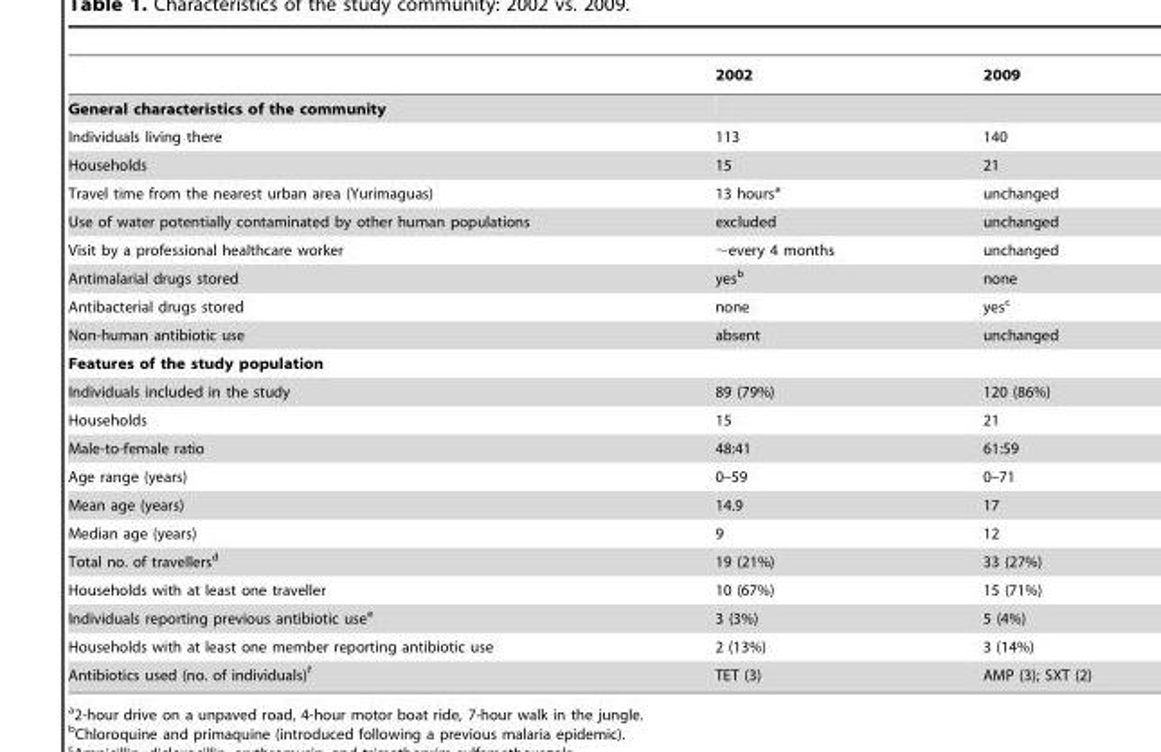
<table><thead><tr><td></td><td>2002</td><td>2009</td></tr></thead><tbody><tr><td colspan="3">General characteristics of the community</td></tr><tr><td>Individuals living there</td><td>113</td><td>140</td></tr><tr><td>Households</td><td>15</td><td>21</td></tr><tr><td>Travel time from the nearest urban area (Yurimaguas)</td><td>13 hours<sup>a</sup></td><td>unchanged</td></tr><tr><td>Use of water potentially contaminated by other human populations</td><td>excluded</td><td>unchanged</td></tr><tr><td>Visit by a professional healthcare worker</td><td>∼every 4 months</td><td>unchanged</td></tr><tr><td>Antimalarial drugs stored</td><td>yes<sup>b</sup></td><td>none</td></tr><tr><td>Antibacterial drugs stored</td><td>none</td><td>yes<sup>c</sup></td></tr><tr><td>Non-human antibiotic use</td><td>absent</td><td>unchanged</td></tr><tr><td colspan="3">Features of the study population</td></tr><tr><td>Individuals included in the study</td><td>89 (79%)</td><td>120 (86%)</td></tr><tr><td>Households</td><td>15</td><td>21</td></tr><tr><td>Male-to-female ratio</td><td>48:41</td><td>61:59</td></tr><tr><td>Age range (years)</td><td>0–59</td><td>0–71</td></tr><tr><td>Mean age (years)</td><td>14.9</td><td>17</td></tr><tr><td>Median age (years)</td><td>9</td><td>12</td></tr><tr><td>Total no. of travellers<sup>d</sup></td><td>19 (21%)</td><td>33 (27%)</td></tr><tr><td>Households with at least one traveller</td><td>10 (67%)</td><td>15 (71%)</td></tr><tr><td>Individuals reporting previous antibiotic use<sup>e</sup></td><td>3 (3%)</td><td>5 (4%)</td></tr><tr><td>Households with at least one member reporting antibiotic use</td><td>2 (13%)</td><td>3 (14%)</td></tr><tr><td>Antibiotics used (no. of individuals)<sup>f</sup></td><td>TET (3)</td><td>AMP (3); SXT (2)</td></tr></tbody></table>